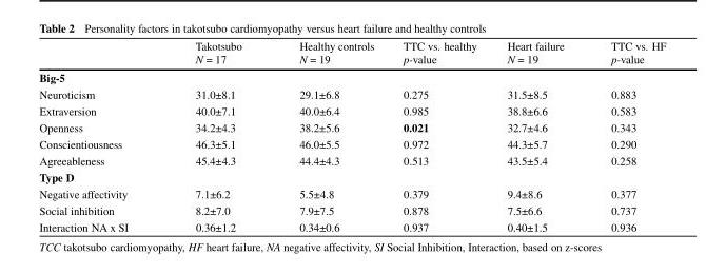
<table><thead><tr><td></td><td>Takotsubo N = 17</td><td>Healthy controls N = 19</td><td>TTC vs. healthy p-value</td><td>Heart failure N = 19</td><td>TTC vs. HF p-value</td></tr></thead><tbody><tr><td colspan="6">Big-5</td></tr><tr><td>Neuroticism</td><td>31.0±8.1</td><td>29.1±6.8</td><td>0.275</td><td>31.5±8.5</td><td>0.883</td></tr><tr><td>Extraversion</td><td>40.0±7.1</td><td>40.0±6.4</td><td>0.985</td><td>38.8±6.6</td><td>0.583</td></tr><tr><td>Openness</td><td>34.2±4.3</td><td>38.2±5.6</td><td>0.021</td><td>32.7±4.6</td><td>0.343</td></tr><tr><td>Conscientiousness</td><td>46.3±5.1</td><td>46.0±5.5</td><td>0.972</td><td>44.3±5.7</td><td>0.290</td></tr><tr><td>Agreeableness</td><td>45.4±4.3</td><td>44.4±4.3</td><td>0.513</td><td>43.5±5.4</td><td>0.258</td></tr><tr><td colspan="6">Type D</td></tr><tr><td>Negative affectivity</td><td>7.1±6.2</td><td>5.5±4.8</td><td>0.379</td><td>9.4±8.6</td><td>0.377</td></tr><tr><td>Social inhibition</td><td>8.2±7.0</td><td>7.9±7.5</td><td>0.878</td><td>7.5±6.6</td><td>0.737</td></tr><tr><td>Interaction NA x SI</td><td>0.36±1.2</td><td>0.34±0.6</td><td>0.937</td><td>0.40±1.5</td><td>0.936</td></tr></tbody></table>